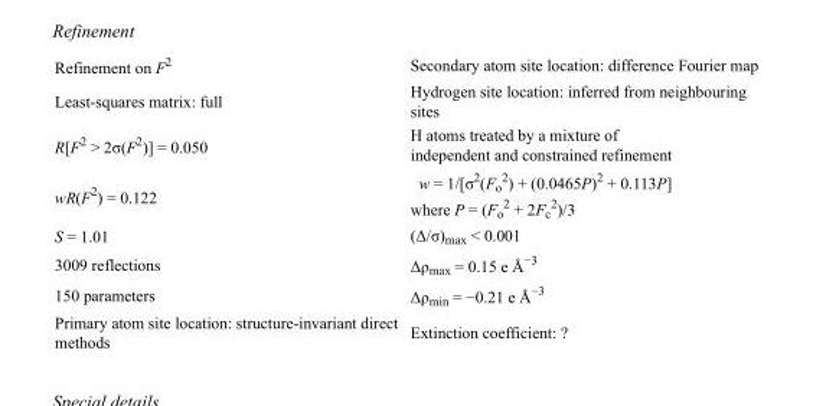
<table><tbody><tr><td>Refinement on F<sup>2</sup></td><td>Secondary atom site location: difference Fourier map</td></tr><tr><td>Least-squares matrix: full</td><td>Hydrogen site location: inferred from neighbouring sites</td></tr><tr><td>R[F<sup>2</sup> &gt; 2σ(F<sup>2</sup>)] = 0.050</td><td>H atoms treated by a mixture of independent and constrained refinement</td></tr><tr><td>wR(F<sup>2</sup>) = 0.122</td><td>w = 1/[σ<sup>2</sup>(F<sub>o</sub> <sup>2</sup>) + (0.0465P)<sup>2</sup> + 0.113P] where P = (F<sub>o</sub> <sup>2</sup> + 2F<sub>c</sub> <sup>2</sup>)/3</td></tr><tr><td>S = 1.01</td><td>(Δ/σ)<sub>max</sub> &lt; 0.001</td></tr><tr><td>3009 reflections</td><td>Δρ<sub>max</sub> = 0.15 e Å<sup>−3</sup></td></tr><tr><td>150 parameters</td><td>Δρ<sub>min</sub> = −0.21 e Å<sup>−3</sup></td></tr><tr><td>Primary atom site location: structure-invariant direct methods</td><td>Extinction coefficient: ?</td></tr></tbody></table>